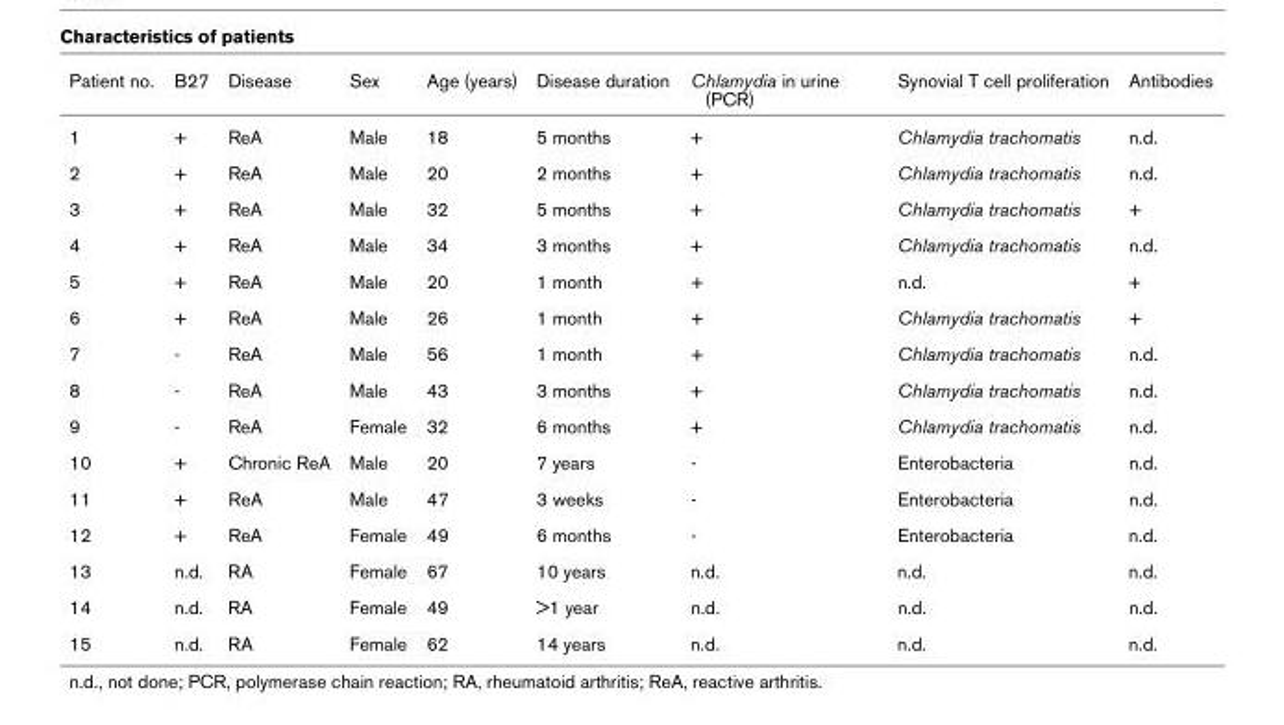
<table><thead><tr><td>Patient no.</td><td>B27</td><td>Disease</td><td>Sex</td><td>Age (years)</td><td>Disease duration</td><td>Chlamydia in urine (PCR)</td><td>Synovial T cell proliferation</td><td>Antibodies</td></tr></thead><tbody><tr><td>1</td><td>+</td><td>ReA</td><td>Male</td><td>18</td><td>5 months</td><td>+</td><td>Chlamydia trachomatis</td><td>n.d.</td></tr><tr><td>2</td><td>+</td><td>ReA</td><td>Male</td><td>20</td><td>2 months</td><td>+</td><td>Chlamydia trachomatis</td><td>n.d.</td></tr><tr><td>3</td><td>+</td><td>ReA</td><td>Male</td><td>32</td><td>5 months</td><td>+</td><td>Chlamydia trachomatis</td><td>+</td></tr><tr><td>4</td><td>+</td><td>ReA</td><td>Male</td><td>34</td><td>3 months</td><td>+</td><td>Chlamydia trachomatis</td><td>n.d.</td></tr><tr><td>5</td><td>+</td><td>ReA</td><td>Male</td><td>20</td><td>1 month</td><td>+</td><td>n.d.</td><td>+</td></tr><tr><td>6</td><td>+</td><td>ReA</td><td>Male</td><td>26</td><td>1 month</td><td>+</td><td>Chlamydia trachomatis</td><td>+</td></tr><tr><td>7</td><td>-</td><td>ReA</td><td>Male</td><td>56</td><td>1 month</td><td>+</td><td>Chlamydia trachomatis</td><td>n.d.</td></tr><tr><td>8</td><td>-</td><td>ReA</td><td>Male</td><td>43</td><td>3 months</td><td>+</td><td>Chlamydia trachomatis</td><td>n.d.</td></tr><tr><td>9</td><td>-</td><td>ReA</td><td>Female</td><td>32</td><td>6 months</td><td>+</td><td>Chlamydia trachomatis</td><td>n.d.</td></tr><tr><td>10</td><td>+</td><td>Chronic ReA</td><td>Male</td><td>20</td><td>7 years</td><td>-</td><td>Enterobacteria</td><td>n.d.</td></tr><tr><td>11</td><td>+</td><td>ReA</td><td>Male</td><td>47</td><td>3 weeks</td><td>-</td><td>Enterobacteria</td><td>n.d.</td></tr><tr><td>12</td><td>+</td><td>ReA</td><td>Female</td><td>49</td><td>6 months</td><td>-</td><td>Enterobacteria</td><td>n.d.</td></tr><tr><td>13</td><td>n.d.</td><td>RA</td><td>Female</td><td>67</td><td>10 years</td><td>n.d.</td><td>n.d.</td><td>n.d.</td></tr><tr><td>14</td><td>n.d.</td><td>RA</td><td>Female</td><td>49</td><td>&gt;1 year</td><td>n.d.</td><td>n.d.</td><td>n.d.</td></tr><tr><td>15</td><td>n.d.</td><td>RA</td><td>Female</td><td>62</td><td>14 years</td><td>n.d.</td><td>n.d.</td><td>n.d.</td></tr></tbody></table>